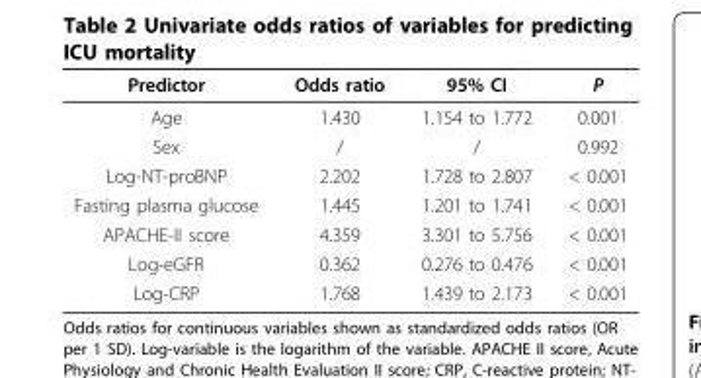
<table><thead><tr><td>Predictor</td><td>Odds ratio</td><td>95% CI</td><td>P</td></tr></thead><tbody><tr><td>Age</td><td>1.430</td><td>1.154 to 1.772</td><td>0.001</td></tr><tr><td>Sex</td><td>/</td><td>/</td><td>0.992</td></tr><tr><td>Log-NT-proBNP</td><td>2.202</td><td>1.728 to 2.807</td><td>&lt; 0.001</td></tr><tr><td>Fasting plasma glucose</td><td>1.445</td><td>1.201 to 1.741</td><td>&lt; 0.001</td></tr><tr><td>APACHE-II score</td><td>4.359</td><td>3.301 to 5.756</td><td>&lt; 0.001</td></tr><tr><td>Log-eGFR</td><td>0.362</td><td>0.276 to 0.476</td><td>&lt; 0.001</td></tr><tr><td>Log-CRP</td><td>1.768</td><td>1.439 to 2.173</td><td>&lt; 0.001</td></tr></tbody></table>